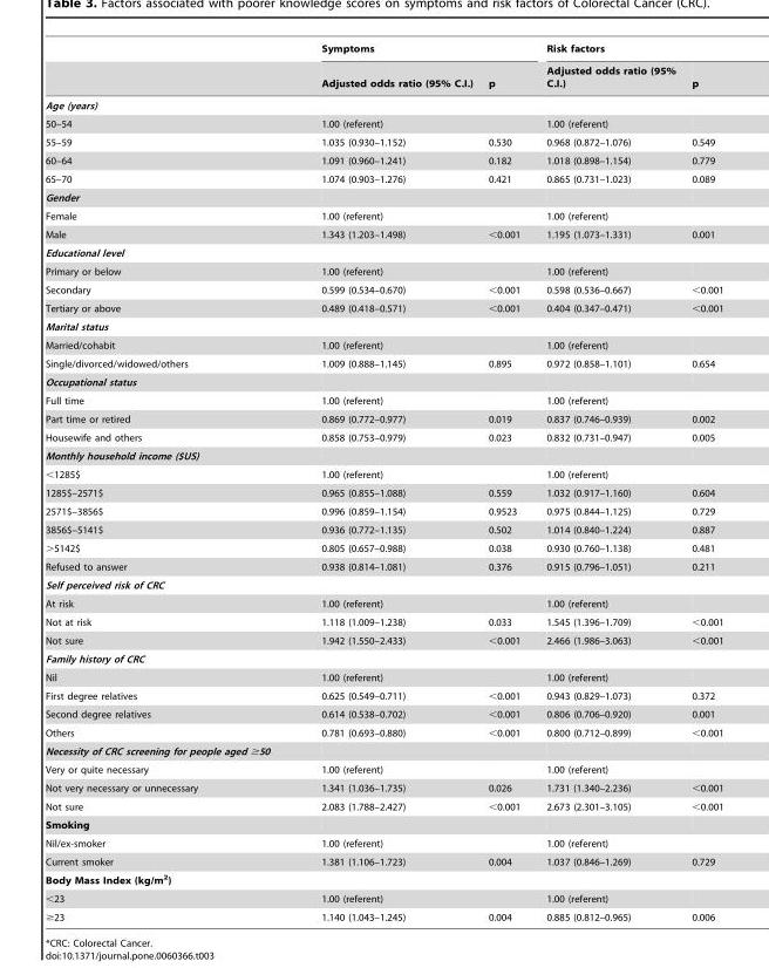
<table><thead><tr><td rowspan="2"></td><td colspan="2">Symptoms</td><td colspan="2">Risk factors</td></tr><tr><td>Adjusted odds ratio (95% C.I.)</td><td>p</td><td>Adjusted odds ratio (95% C.I.)</td><td>p</td></tr></thead><tbody><tr><td colspan="5">Age (years)</td></tr><tr><td>50–54</td><td>1.00 (referent)</td><td></td><td>1.00 (referent)</td><td></td></tr><tr><td>55–59</td><td>1.035 (0.930–1.152)</td><td>0.530</td><td>0.968 (0.872–1.076)</td><td>0.549</td></tr><tr><td>60–64</td><td>1.091 (0.960–1.241)</td><td>0.182</td><td>1.018 (0.898–1.154)</td><td>0.779</td></tr><tr><td>65–70</td><td>1.074 (0.903–1.276)</td><td>0.421</td><td>0.865 (0.731–1.023)</td><td>0.089</td></tr><tr><td colspan="5">Gender</td></tr><tr><td>Female</td><td>1.00 (referent)</td><td></td><td>1.00 (referent)</td><td></td></tr><tr><td>Male</td><td>1.343 (1.203–1.498)</td><td>&lt;0.001</td><td>1.195 (1.073–1.331)</td><td>0.001</td></tr><tr><td colspan="5">Educational level</td></tr><tr><td>Primary or below</td><td>1.00 (referent)</td><td></td><td>1.00 (referent)</td><td></td></tr><tr><td>Secondary</td><td>0.599 (0.534–0.670)</td><td>&lt;0.001</td><td>0.598 (0.536–0.667)</td><td>&lt;0.001</td></tr><tr><td>Tertiary or above</td><td>0.489 (0.418–0.571)</td><td>&lt;0.001</td><td>0.404 (0.347–0.471)</td><td>&lt;0.001</td></tr><tr><td colspan="5">Marital status</td></tr><tr><td>Married/cohabit</td><td>1.00 (referent)</td><td></td><td>1.00 (referent)</td><td></td></tr><tr><td>Single/divorced/widowed/others</td><td>1.009 (0.888–1.145)</td><td>0.895</td><td>0.972 (0.858–1.101)</td><td>0.654</td></tr><tr><td colspan="5">Occupational status</td></tr><tr><td>Full time</td><td>1.00 (referent)</td><td></td><td>1.00 (referent)</td><td></td></tr><tr><td>Part time or retired</td><td>0.869 (0.772–0.977)</td><td>0.019</td><td>0.837 (0.746–0.939)</td><td>0.002</td></tr><tr><td>Housewife and others</td><td>0.858 (0.753–0.979)</td><td>0.023</td><td>0.832 (0.731–0.947)</td><td>0.005</td></tr><tr><td colspan="5">Monthly household income ($US)</td></tr><tr><td>&lt;1285$</td><td>1.00 (referent)</td><td></td><td>1.00 (referent)</td><td></td></tr><tr><td>1285$–2571$</td><td>0.965 (0.855–1.088)</td><td>0.559</td><td>1.032 (0.917–1.160)</td><td>0.604</td></tr><tr><td>2571$–3856$</td><td>0.996 (0.859–1.154)</td><td>0.9523</td><td>0.975 (0.844–1.125)</td><td>0.729</td></tr><tr><td>3856$–5141$</td><td>0.936 (0.772–1.135)</td><td>0.502</td><td>1.014 (0.840–1.224)</td><td>0.887</td></tr><tr><td>&gt;5142$</td><td>0.805 (0.657–0.988)</td><td>0.038</td><td>0.930 (0.760–1.138)</td><td>0.481</td></tr><tr><td>Refused to answer</td><td>0.938 (0.814–1.081)</td><td>0.376</td><td>0.915 (0.796–1.051)</td><td>0.211</td></tr><tr><td colspan="5">Self perceived risk of CRC</td></tr><tr><td>At risk</td><td>1.00 (referent)</td><td></td><td>1.00 (referent)</td><td></td></tr><tr><td>Not at risk</td><td>1.118 (1.009–1.238)</td><td>0.033</td><td>1.545 (1.396–1.709)</td><td>&lt;0.001</td></tr><tr><td>Not sure</td><td>1.942 (1.550–2.433)</td><td>&lt;0.001</td><td>2.466 (1.986–3.063)</td><td>&lt;0.001</td></tr><tr><td colspan="5">Family history of CRC</td></tr><tr><td>Nil</td><td>1.00 (referent)</td><td></td><td>1.00 (referent)</td><td></td></tr><tr><td>First degree relatives</td><td>0.625 (0.549–0.711)</td><td>&lt;0.001</td><td>0.943 (0.829–1.073)</td><td>0.372</td></tr><tr><td>Second degree relatives</td><td>0.614 (0.538–0.702)</td><td>&lt;0.001</td><td>0.806 (0.706–0.920)</td><td>0.001</td></tr><tr><td>Others</td><td>0.781 (0.693–0.880)</td><td>&lt;0.001</td><td>0.800 (0.712–0.899)</td><td>&lt;0.001</td></tr><tr><td colspan="5">Necessity of CRC screening for people aged ≥50</td></tr><tr><td>Very or quite necessary</td><td>1.00 (referent)</td><td></td><td>1.00 (referent)</td><td></td></tr><tr><td>Not very necessary or unnecessary</td><td>1.341 (1.036–1.735)</td><td>0.026</td><td>1.731 (1.340–2.236)</td><td>&lt;0.001</td></tr><tr><td>Not sure</td><td>2.083 (1.788–2.427)</td><td>&lt;0.001</td><td>2.673 (2.301–3.105)</td><td>&lt;0.001</td></tr><tr><td colspan="5">Smoking</td></tr><tr><td>Nil/ex-smoker</td><td>1.00 (referent)</td><td></td><td>1.00 (referent)</td><td></td></tr><tr><td>Current smoker</td><td>1.381 (1.106–1.723)</td><td>0.004</td><td>1.037 (0.846–1.269)</td><td>0.729</td></tr><tr><td colspan="5">Body Mass Index (kg/m<sup>2</sup>)</td></tr><tr><td>&lt;23</td><td>1.00 (referent)</td><td></td><td>1.00 (referent)</td><td></td></tr><tr><td>≥23</td><td>1.140 (1.043–1.245)</td><td>0.004</td><td>0.885 (0.812–0.965)</td><td>0.006</td></tr></tbody></table>